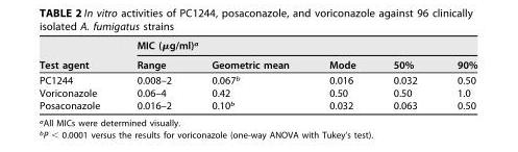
<table><thead><tr><td rowspan="2">Test agent</td><td colspan="5">MIC (μg/ml)<sup>a</sup></td></tr><tr><td>Range</td><td>Geometric mean</td><td>Mode</td><td>50%</td><td>90%</td></tr></thead><tbody><tr><td>PC1244</td><td>0.008–2</td><td>0.067<sup>b</sup></td><td>0.016</td><td>0.032</td><td>0.50</td></tr><tr><td>Voriconazole</td><td>0.06–4</td><td>0.42</td><td>0.50</td><td>0.50</td><td>1.0</td></tr><tr><td>Posaconazole</td><td>0.016–2</td><td>0.10<sup>b</sup></td><td>0.032</td><td>0.063</td><td>0.50</td></tr></tbody></table>